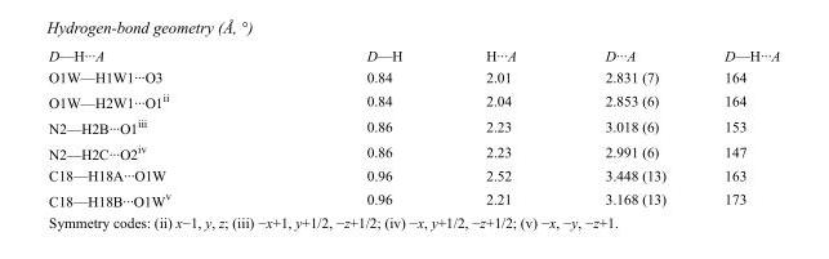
<table><tbody><tr><td>D—H···A</td><td>D—H</td><td>H···A</td><td>D···A</td><td>D—H···A</td></tr><tr><td>O1W—H1W1···O3</td><td>0.84</td><td>2.01</td><td>2.831 (7)</td><td>164</td></tr><tr><td>O1W—H2W1···O1<sup>ii</sup></td><td>0.84</td><td>2.04</td><td>2.853 (6)</td><td>164</td></tr><tr><td>N2—H2B···O1<sup>iii</sup></td><td>0.86</td><td>2.23</td><td>3.018 (6)</td><td>153</td></tr><tr><td>N2—H2C···O2<sup>iv</sup></td><td>0.86</td><td>2.23</td><td>2.991 (6)</td><td>147</td></tr><tr><td>C18—H18A···O1W</td><td>0.96</td><td>2.52</td><td>3.448 (13)</td><td>163</td></tr><tr><td>C18—H18B···O1W<sup>v</sup></td><td>0.96</td><td>2.21</td><td>3.168 (13)</td><td>173</td></tr></tbody></table>